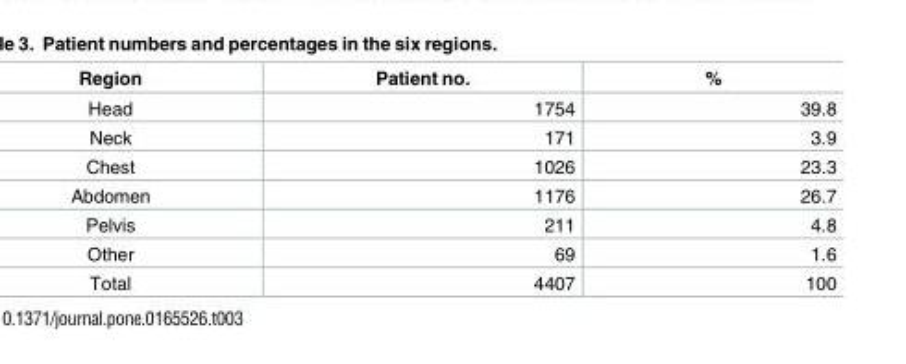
<table><thead><tr><td>Region</td><td>Patient no.</td><td>%</td></tr></thead><tbody><tr><td>Head</td><td>1754</td><td>39.8</td></tr><tr><td>Neck</td><td>171</td><td>3.9</td></tr><tr><td>Chest</td><td>1026</td><td>23.3</td></tr><tr><td>Abdomen</td><td>1176</td><td>26.7</td></tr><tr><td>Pelvis</td><td>211</td><td>4.8</td></tr><tr><td>Other</td><td>69</td><td>1.6</td></tr><tr><td>Total</td><td>4407</td><td>100</td></tr></tbody></table>